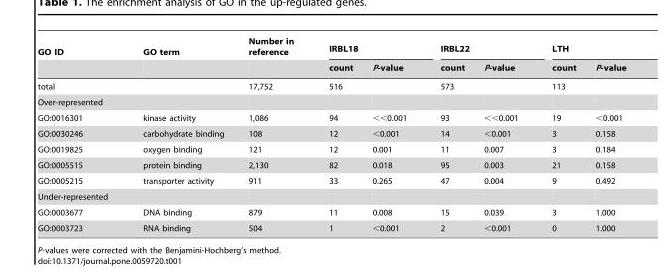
<table><thead><tr><td rowspan="2">GO ID</td><td rowspan="2">GO term</td><td rowspan="2">Number in reference</td><td colspan="2">IRBL18</td><td colspan="2">IRBL22</td><td colspan="2">LTH</td></tr><tr><td>count</td><td>P-value</td><td>count</td><td>P-value</td><td>count</td><td>P-value</td></tr></thead><tbody><tr><td>total</td><td></td><td>17,752</td><td>516</td><td></td><td>573</td><td></td><td>113</td><td></td></tr><tr><td colspan="9">Over-represented</td></tr><tr><td>GO:0016301</td><td>kinase activity</td><td>1,086</td><td>94</td><td>&lt;&lt;0.001</td><td>93</td><td>&lt;&lt;0.001</td><td>19</td><td>&lt;0.001</td></tr><tr><td>GO:0030246</td><td>carbohydrate binding</td><td>108</td><td>12</td><td>&lt;0.001</td><td>14</td><td>&lt;0.001</td><td>3</td><td>0.158</td></tr><tr><td>GO:0019825</td><td>oxygen binding</td><td>121</td><td>12</td><td>0.001</td><td>11</td><td>0.007</td><td>3</td><td>0.184</td></tr><tr><td>GO:0005515</td><td>protein binding</td><td>2,130</td><td>82</td><td>0.018</td><td>95</td><td>0.003</td><td>21</td><td>0.158</td></tr><tr><td>GO:0005215</td><td>transporter activity</td><td>911</td><td>33</td><td>0.265</td><td>47</td><td>0.004</td><td>9</td><td>0.492</td></tr><tr><td colspan="9">Under-represented</td></tr><tr><td>GO:0003677</td><td>DNA binding</td><td>879</td><td>11</td><td>0.008</td><td>15</td><td>0.039</td><td>3</td><td>1.000</td></tr><tr><td>GO:0003723</td><td>RNA binding</td><td>504</td><td>1</td><td>&lt;0.001</td><td>2</td><td>&lt;0.001</td><td>0</td><td>1.000</td></tr></tbody></table>